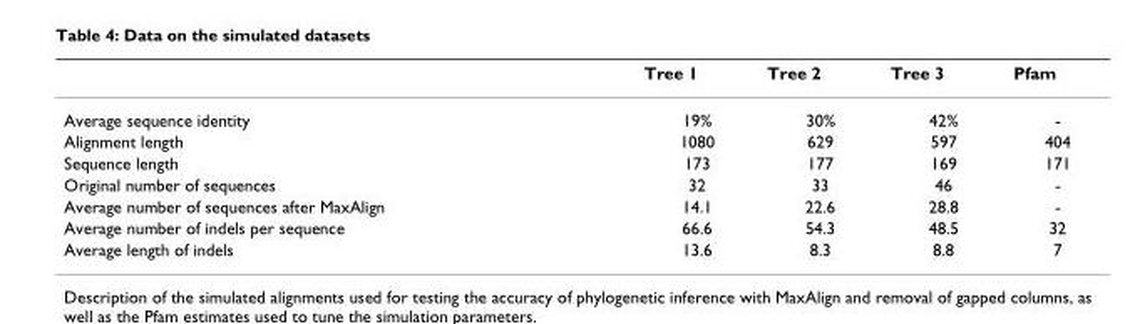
<table><thead><tr><td></td><td>Tree 1</td><td>Tree 2</td><td>Tree 3</td><td>Pfam</td></tr></thead><tbody><tr><td>Average sequence identity</td><td>19%</td><td>30%</td><td>42%</td><td>-</td></tr><tr><td>Alignment length</td><td>1080</td><td>629</td><td>597</td><td>404</td></tr><tr><td>Sequence length</td><td>173</td><td>177</td><td>169</td><td>171</td></tr><tr><td>Original number of sequences</td><td>32</td><td>33</td><td>46</td><td>-</td></tr><tr><td>Average number of sequences after MaxAlign</td><td>14.1</td><td>22.6</td><td>28.8</td><td>-</td></tr><tr><td>Average number of indels per sequence</td><td>66.6</td><td>54.3</td><td>48.5</td><td>32</td></tr><tr><td>Average length of indels</td><td>13.6</td><td>8.3</td><td>8.8</td><td>7</td></tr></tbody></table>